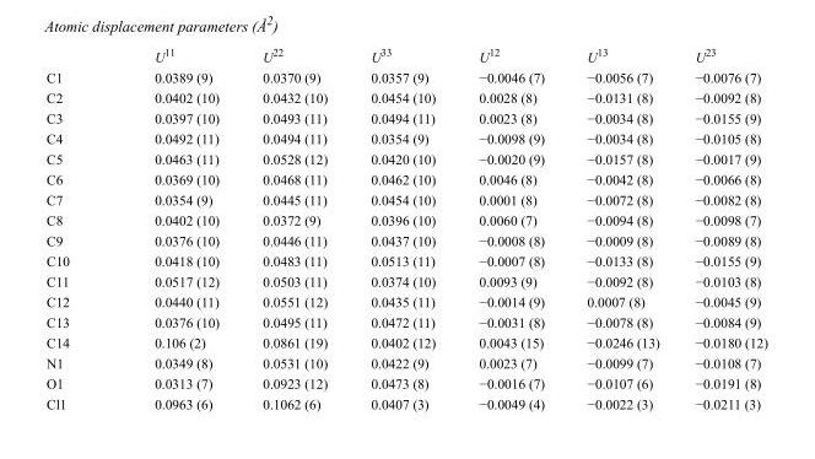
<table><thead><tr><td></td><td>U<sup>11</sup></td><td>U<sup>22</sup></td><td>U<sup>33</sup></td><td>U<sup>12</sup></td><td>U<sup>13</sup></td><td>U<sup>23</sup></td></tr></thead><tbody><tr><td>C1</td><td>0.0389 (9)</td><td>0.0370 (9)</td><td>0.0357 (9)</td><td>−0.0046 (7)</td><td>−0.0056 (7)</td><td>−0.0076 (7)</td></tr><tr><td>C2</td><td>0.0402 (10)</td><td>0.0432 (10)</td><td>0.0454 (10)</td><td>0.0028 (8)</td><td>−0.0131 (8)</td><td>−0.0092 (8)</td></tr><tr><td>C3</td><td>0.0397 (10)</td><td>0.0493 (11)</td><td>0.0494 (11)</td><td>0.0023 (8)</td><td>−0.0034 (8)</td><td>−0.0155 (9)</td></tr><tr><td>C4</td><td>0.0492 (11)</td><td>0.0494 (11)</td><td>0.0354 (9)</td><td>−0.0098 (9)</td><td>−0.0034 (8)</td><td>−0.0105 (8)</td></tr><tr><td>C5</td><td>0.0463 (11)</td><td>0.0528 (12)</td><td>0.0420 (10)</td><td>−0.0020 (9)</td><td>−0.0157 (8)</td><td>−0.0017 (9)</td></tr><tr><td>C6</td><td>0.0369 (10)</td><td>0.0468 (11)</td><td>0.0462 (10)</td><td>0.0046 (8)</td><td>−0.0042 (8)</td><td>−0.0066 (8)</td></tr><tr><td>C7</td><td>0.0354 (9)</td><td>0.0445 (11)</td><td>0.0454 (10)</td><td>0.0001 (8)</td><td>−0.0072 (8)</td><td>−0.0082 (8)</td></tr><tr><td>C8</td><td>0.0402 (10)</td><td>0.0372 (9)</td><td>0.0396 (10)</td><td>0.0060 (7)</td><td>−0.0094 (8)</td><td>−0.0098 (7)</td></tr><tr><td>C9</td><td>0.0376 (10)</td><td>0.0446 (11)</td><td>0.0437 (10)</td><td>−0.0008 (8)</td><td>−0.0009 (8)</td><td>−0.0089 (8)</td></tr><tr><td>C10</td><td>0.0418 (10)</td><td>0.0483 (11)</td><td>0.0513 (11)</td><td>−0.0007 (8)</td><td>−0.0133 (8)</td><td>−0.0155 (9)</td></tr><tr><td>C11</td><td>0.0517 (12)</td><td>0.0503 (11)</td><td>0.0374 (10)</td><td>0.0093 (9)</td><td>−0.0092 (8)</td><td>−0.0103 (8)</td></tr><tr><td>C12</td><td>0.0440 (11)</td><td>0.0551 (12)</td><td>0.0435 (11)</td><td>−0.0014 (9)</td><td>0.0007 (8)</td><td>−0.0045 (9)</td></tr><tr><td>C13</td><td>0.0376 (10)</td><td>0.0495 (11)</td><td>0.0472 (11)</td><td>−0.0031 (8)</td><td>−0.0078 (8)</td><td>−0.0084 (9)</td></tr><tr><td>C14</td><td>0.106 (2)</td><td>0.0861 (19)</td><td>0.0402 (12)</td><td>0.0043 (15)</td><td>−0.0246 (13)</td><td>−0.0180 (12)</td></tr><tr><td>N1</td><td>0.0349 (8)</td><td>0.0531 (10)</td><td>0.0422 (9)</td><td>0.0023 (7)</td><td>−0.0099 (7)</td><td>−0.0108 (7)</td></tr><tr><td>O1</td><td>0.0313 (7)</td><td>0.0923 (12)</td><td>0.0473 (8)</td><td>−0.0016 (7)</td><td>−0.0107 (6)</td><td>−0.0191 (8)</td></tr><tr><td>Cl1</td><td>0.0963 (6)</td><td>0.1062 (6)</td><td>0.0407 (3)</td><td>−0.0049 (4)</td><td>−0.0022 (3)</td><td>−0.0211 (3)</td></tr></tbody></table>